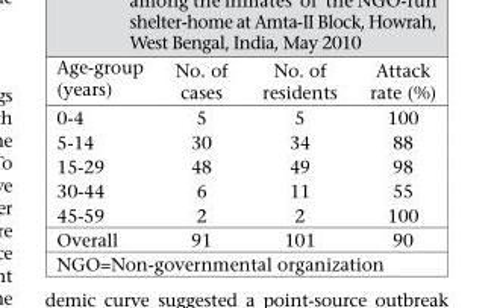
<table><thead><tr><td>Age-group (years)</td><td>No. of cases</td><td>No. of residents</td><td>Attack rate (%)</td></tr></thead><tbody><tr><td>0-4</td><td>5</td><td>5</td><td>100</td></tr><tr><td>5-14</td><td>30</td><td>34</td><td>88</td></tr><tr><td>15-29</td><td>48</td><td>49</td><td>98</td></tr><tr><td>30-44</td><td>6</td><td>11</td><td>55</td></tr><tr><td>45-59</td><td>2</td><td>2</td><td>100</td></tr><tr><td>Overall</td><td>91</td><td>101</td><td>90</td></tr></tbody></table>